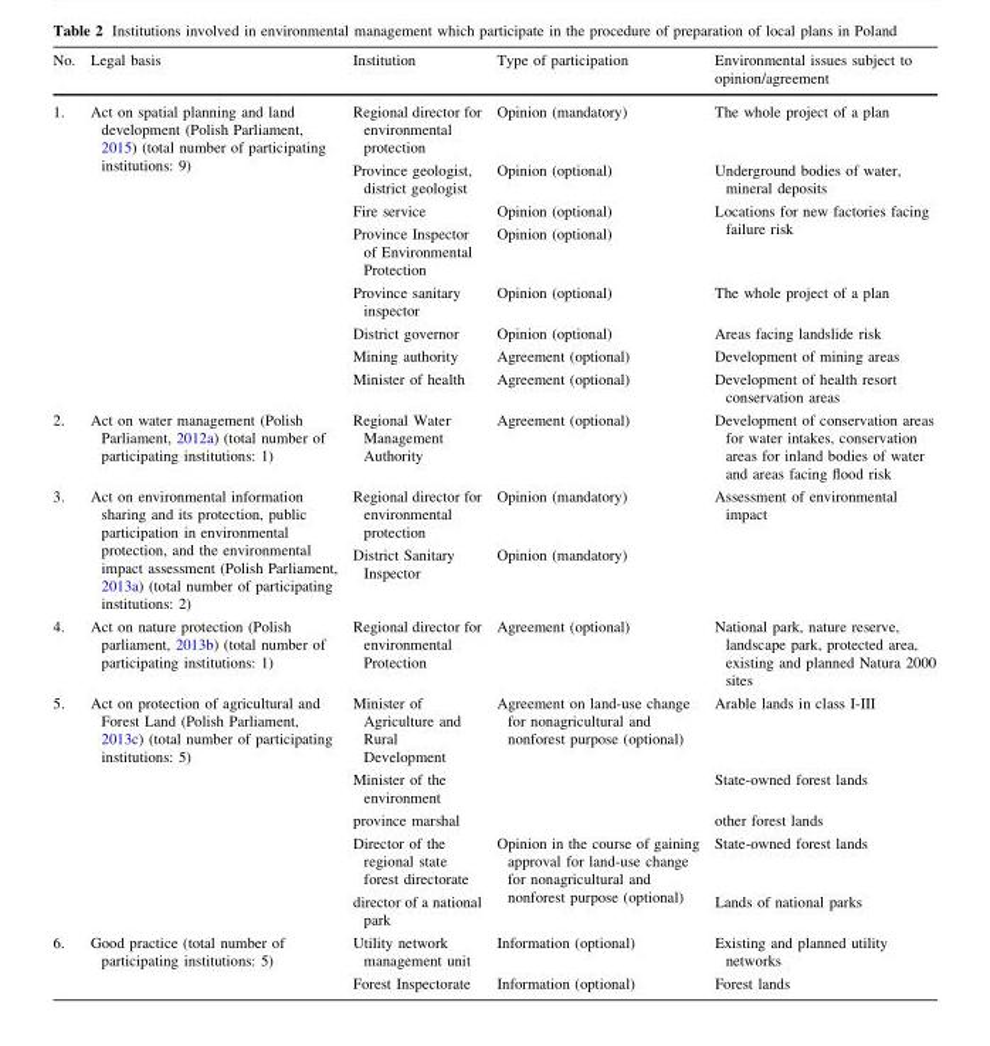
<table><thead><tr><td>No.</td><td>Legal basis</td><td>Institution</td><td>Type of participation</td><td>Environmental issues subject to opinion/agreement</td></tr></thead><tbody><tr><td rowspan="8">1.</td><td rowspan="8">Act on spatial planning and land development (Polish Parliament, 2015) (total number of participating institutions: 9)</td><td>Regional director for environmental protection</td><td>Opinion (mandatory)</td><td>The whole project of a plan</td></tr><tr><td>Province geologist, district geologist</td><td>Opinion (optional)</td><td>Underground bodies of water, mineral deposits</td></tr><tr><td>Fire service</td><td>Opinion (optional)</td><td rowspan="2">Locations for new factories facing failure risk</td></tr><tr><td>Province Inspector of Environmental Protection</td><td>Opinion (optional)</td></tr><tr><td>Province sanitary inspector</td><td>Opinion (optional)</td><td>The whole project of a plan</td></tr><tr><td>District governor</td><td>Opinion (optional)</td><td>Areas facing landslide risk</td></tr><tr><td>Mining authority</td><td>Agreement (optional)</td><td>Development of mining areas</td></tr><tr><td>Minister of health</td><td>Agreement (optional)</td><td>Development of health resort conservation areas</td></tr><tr><td>2.</td><td>Act on water management (Polish Parliament, 2012a) (total number of participating institutions: 1)</td><td>Regional Water Management Authority</td><td>Agreement (optional)</td><td>Development of conservation areas for water intakes, conservation areas for inland bodies of water and areas facing flood risk</td></tr><tr><td rowspan="2">3.</td><td rowspan="2">Act on environmental information sharing and its protection, public participation in environmental protection, and the environmental impact assessment (Polish Parliament, 2013a) (total number of participating institutions: 2)</td><td>Regional director for environmental protection</td><td>Opinion (mandatory)</td><td rowspan="2">Assessment of environmental impact</td></tr><tr><td>District Sanitary Inspector</td><td>Opinion (mandatory)</td></tr><tr><td>4.</td><td>Act on nature protection (Polish parliament, 2013b) (total number of participating institutions: 1)</td><td>Regional director for environmental Protection</td><td>Agreement (optional)</td><td>National park, nature reserve, landscape park, protected area, existing and planned Natura 2000 sites</td></tr><tr><td rowspan="5">5.</td><td rowspan="5">Act on protection of agricultural and Forest Land (Polish Parliament, 2013c) (total number of participating institutions: 5)</td><td>Minister of Agriculture and Rural Development</td><td rowspan="3">Agreement on land-use change for nonagricultural and nonforest purpose (optional)</td><td>Arable lands in class I-III</td></tr><tr><td>Minister of the environment</td><td>State-owned forest lands</td></tr><tr><td>province marshal</td><td>other forest lands</td></tr><tr><td>Director of the regional state forest directorate</td><td rowspan="2">Opinion in the course of gaining approval for land-use change for nonagricultural and nonforest purpose (optional)</td><td>State-owned forest lands</td></tr><tr><td>director of a national park</td><td>Lands of national parks</td></tr><tr><td rowspan="2">6.</td><td rowspan="2">Good practice (total number of participating institutions: 5)</td><td>Utility network management unit</td><td>Information (optional)</td><td>Existing and planned utility networks</td></tr><tr><td>Forest Inspectorate</td><td>Information (optional)</td><td>Forest lands</td></tr></tbody></table>